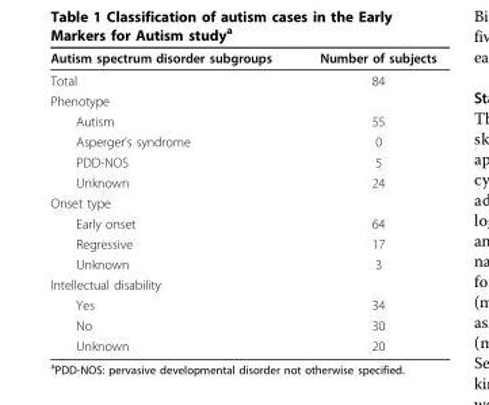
<table><thead><tr><td>Autism spectrum disorder subgroups</td><td>Number of subjects</td></tr></thead><tbody><tr><td>Total</td><td>84</td></tr><tr><td colspan="2">Phenotype</td></tr><tr><td>Autism</td><td>55</td></tr><tr><td>Asperger’s syndrome</td><td>0</td></tr><tr><td>PDD-NOS</td><td>5</td></tr><tr><td>Unknown</td><td>24</td></tr><tr><td colspan="2">Onset type</td></tr><tr><td>Early onset</td><td>64</td></tr><tr><td>Regressive</td><td>17</td></tr><tr><td>Unknown</td><td>3</td></tr><tr><td colspan="2">Intellectual disability</td></tr><tr><td>Yes</td><td>34</td></tr><tr><td>No</td><td>30</td></tr><tr><td>Unknown</td><td>20</td></tr></tbody></table>